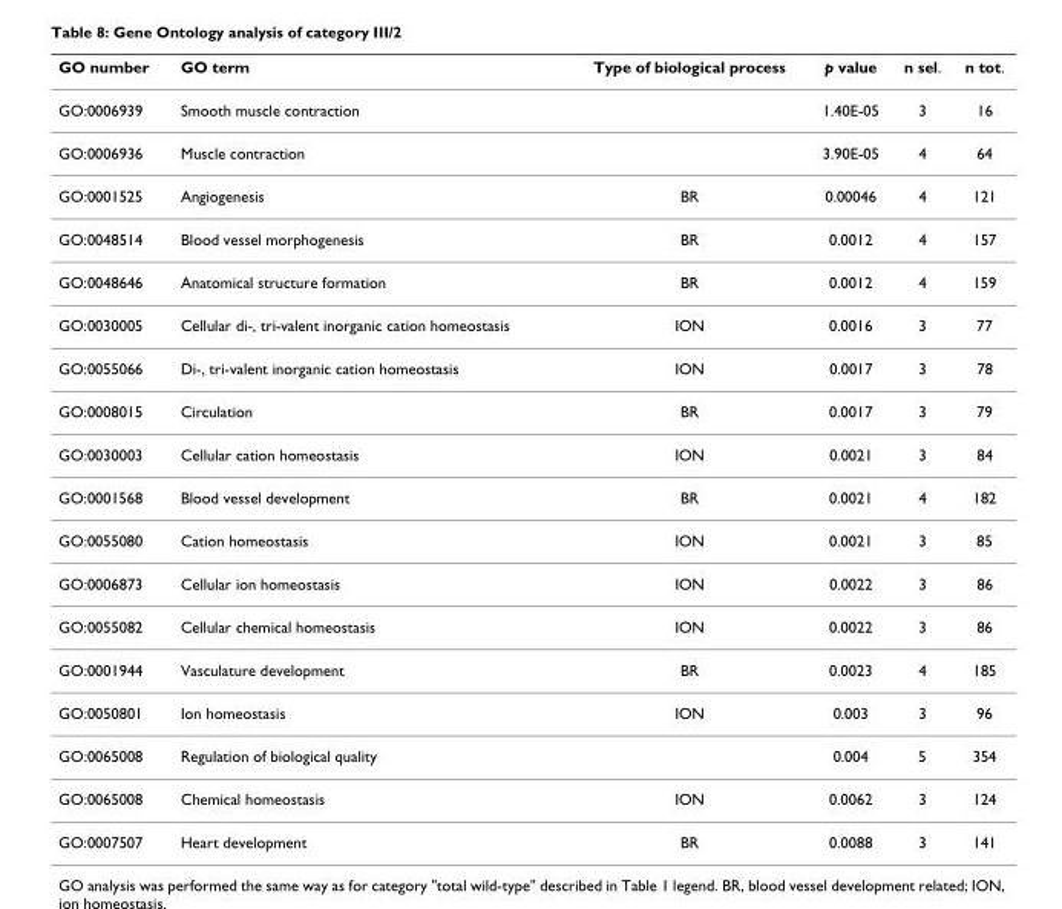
<table><thead><tr><td>GO number</td><td>GO term</td><td>Type of biological process</td><td>p value</td><td>n sel.</td><td>n tot.</td></tr></thead><tbody><tr><td>GO:0006939</td><td>Smooth muscle contraction</td><td></td><td>1.40E-05</td><td>3</td><td>16</td></tr><tr><td>GO:0006936</td><td>Muscle contraction</td><td></td><td>3.90E-05</td><td>4</td><td>64</td></tr><tr><td>GO:0001525</td><td>Angiogenesis</td><td>BR</td><td>0.00046</td><td>4</td><td>121</td></tr><tr><td>GO:0048514</td><td>Blood vessel morphogenesis</td><td>BR</td><td>0.0012</td><td>4</td><td>157</td></tr><tr><td>GO:0048646</td><td>Anatomical structure formation</td><td>BR</td><td>0.0012</td><td>4</td><td>159</td></tr><tr><td>GO:0030005</td><td>Cellular di-, tri-valent inorganic cation homeostasis</td><td>ION</td><td>0.0016</td><td>3</td><td>77</td></tr><tr><td>GO:0055066</td><td>Di-, tri-valent inorganic cation homeostasis</td><td>ION</td><td>0.0017</td><td>3</td><td>78</td></tr><tr><td>GO:0008015</td><td>Circulation</td><td>BR</td><td>0.0017</td><td>3</td><td>79</td></tr><tr><td>GO:0030003</td><td>Cellular cation homeostasis</td><td>ION</td><td>0.0021</td><td>3</td><td>84</td></tr><tr><td>GO:0001568</td><td>Blood vessel development</td><td>BR</td><td>0.0021</td><td>4</td><td>182</td></tr><tr><td>GO:0055080</td><td>Cation homeostasis</td><td>ION</td><td>0.0021</td><td>3</td><td>85</td></tr><tr><td>GO:0006873</td><td>Cellular ion homeostasis</td><td>ION</td><td>0.0022</td><td>3</td><td>86</td></tr><tr><td>GO:0055082</td><td>Cellular chemical homeostasis</td><td>ION</td><td>0.0022</td><td>3</td><td>86</td></tr><tr><td>GO:0001944</td><td>Vasculature development</td><td>BR</td><td>0.0023</td><td>4</td><td>185</td></tr><tr><td>GO:0050801</td><td>Ion homeostasis</td><td>ION</td><td>0.003</td><td>3</td><td>96</td></tr><tr><td>GO:0065008</td><td>Regulation of biological quality</td><td></td><td>0.004</td><td>5</td><td>354</td></tr><tr><td>GO:0065008</td><td>Chemical homeostasis</td><td>ION</td><td>0.0062</td><td>3</td><td>124</td></tr><tr><td>GO:0007507</td><td>Heart development</td><td>BR</td><td>0.0088</td><td>3</td><td>141</td></tr></tbody></table>